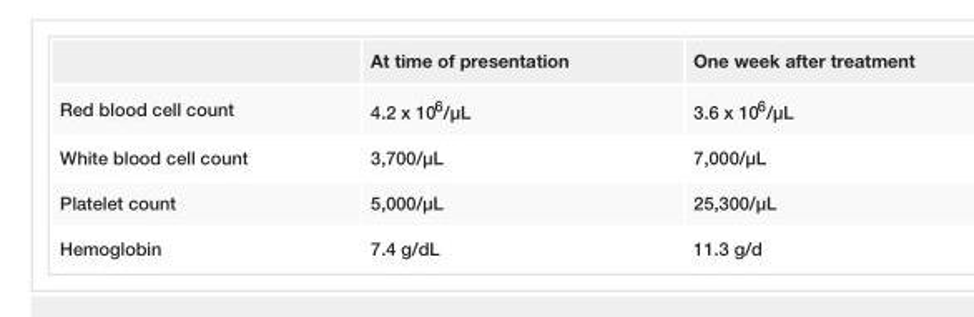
<table><thead><tr><td></td><td>At time of presentation</td><td>One week after treatment</td></tr></thead><tbody><tr><td>Red blood cell count</td><td>4.2 x 10<sup>6</sup>/µL</td><td>3.6 x 10<sup>6</sup>/µL</td></tr><tr><td>White blood cell count</td><td>3,700/µL</td><td>7,000/µL</td></tr><tr><td>Platelet count</td><td>5,000/µL</td><td>25,300/µL</td></tr><tr><td>Hemoglobin</td><td>7.4 g/dL</td><td>11.3 g/d</td></tr></tbody></table>